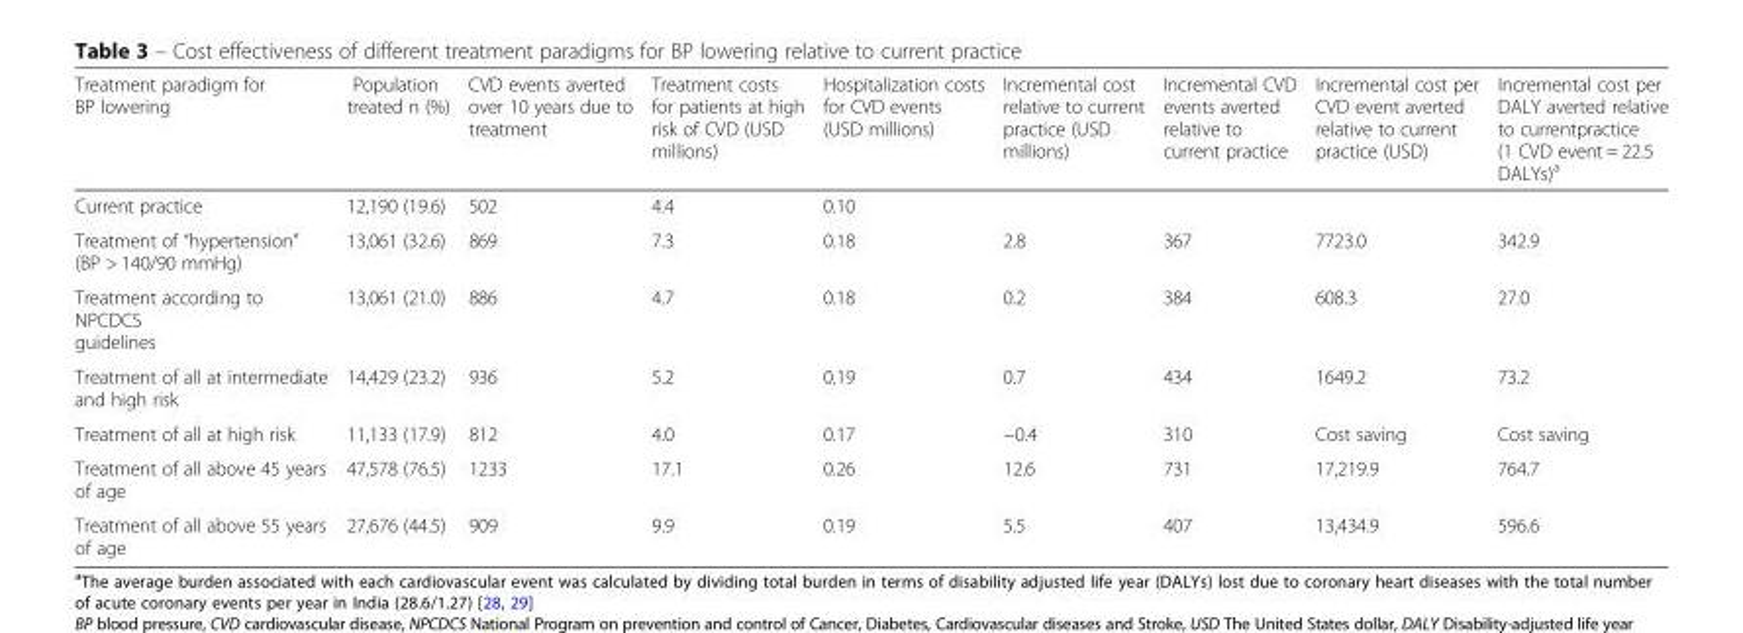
<table><thead><tr><td>Treatment paradigm for BP lowering</td><td>Population treated n (%)</td><td>CVD events averted over 10 years due to treatment</td><td>Treatment costs for patients at high risk of CVD (USD millions)</td><td>Hospitalization costs for CVD events (USD millions)</td><td>Incremental cost relative to current practice (USD millions)</td><td>Incremental CVD events averted relative to current practice</td><td>Incremental cost per CVD event averted relative to current practice (USD)</td><td>Incremental cost per DALY averted relative to currentpractice (1 CVD event = 22.5 DALYs)<sup>a</sup></td></tr></thead><tbody><tr><td>Current practice</td><td>12,190 (19.6)</td><td>502</td><td>4.4</td><td>0.10</td><td></td><td></td><td></td><td></td></tr><tr><td>Treatment of “hypertension” (BP &gt; 140/90 mmHg)</td><td>13,061 (32.6)</td><td>869</td><td>7.3</td><td>0.18</td><td>2.8</td><td>367</td><td>7723.0</td><td>342.9</td></tr><tr><td>Treatment according to NPCDCS guidelines</td><td>13,061 (21.0)</td><td>886</td><td>4.7</td><td>0.18</td><td>0.2</td><td>384</td><td>608.3</td><td>27.0</td></tr><tr><td>Treatment of all at intermediate and high risk</td><td>14,429 (23.2)</td><td>936</td><td>5.2</td><td>0.19</td><td>0.7</td><td>434</td><td>1649.2</td><td>73.2</td></tr><tr><td>Treatment of all at high risk</td><td>11,133 (17.9)</td><td>812</td><td>4.0</td><td>0.17</td><td>−0.4</td><td>310</td><td>Cost saving</td><td>Cost saving</td></tr><tr><td>Treatment of all above 45 years of age</td><td>47,578 (76.5)</td><td>1233</td><td>17.1</td><td>0.26</td><td>12.6</td><td>731</td><td>17,219.9</td><td>764.7</td></tr><tr><td>Treatment of all above 55 years of age</td><td>27,676 (44.5)</td><td>909</td><td>9.9</td><td>0.19</td><td>5.5</td><td>407</td><td>13,434.9</td><td>596.6</td></tr></tbody></table>